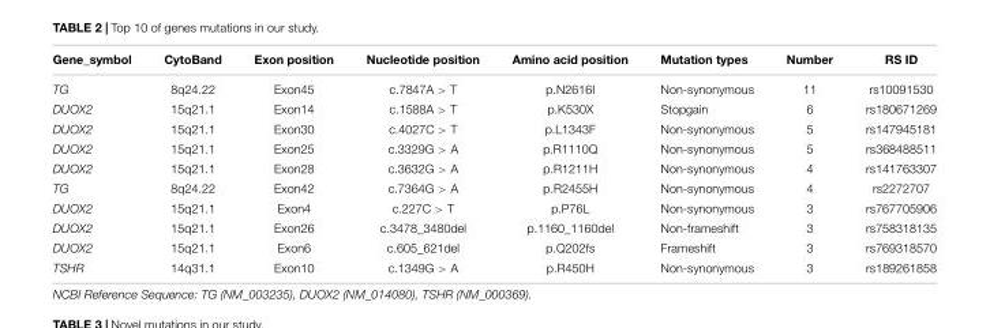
<table><thead><tr><td>Gene_symbol</td><td>CytoBand</td><td>Exon position</td><td>Nucleotide position</td><td>Amino acid position</td><td>Mutation types</td><td>Number</td><td>RS ID</td></tr></thead><tbody><tr><td>TG</td><td>8q24.22</td><td>Exon45</td><td>c.7847A &gt; T</td><td>p.N2616I</td><td>Non-synonymous</td><td>11</td><td>rs10091530</td></tr><tr><td>DUOX2</td><td>15q21.1</td><td>Exon14</td><td>c.1588A &gt; T</td><td>p.K530X</td><td>Stopgain</td><td>6</td><td>rs180671269</td></tr><tr><td>DUOX2</td><td>15q21.1</td><td>Exon30</td><td>c.4027C &gt; T</td><td>p.L1343F</td><td>Non-synonymous</td><td>5</td><td>rs147945181</td></tr><tr><td>DUOX2</td><td>15q21.1</td><td>Exon25</td><td>c.3329G &gt; A</td><td>p.R1110Q</td><td>Non-synonymous</td><td>5</td><td>rs368488511</td></tr><tr><td>DUOX2</td><td>15q21.1</td><td>Exon28</td><td>c.3632G &gt; A</td><td>p.R1211H</td><td>Non-synonymous</td><td>4</td><td>rs141763307</td></tr><tr><td>TG</td><td>8q24.22</td><td>Exon42</td><td>c.7364G &gt; A</td><td>p.R2455H</td><td>Non-synonymous</td><td>4</td><td>rs2272707</td></tr><tr><td>DUOX2</td><td>15q21.1</td><td>Exon4</td><td>c.227C &gt; T</td><td>p.P76L</td><td>Non-synonymous</td><td>3</td><td>rs767705906</td></tr><tr><td>DUOX2</td><td>15q21.1</td><td>Exon26</td><td>c.3478_3480del</td><td>p.1160_1160del</td><td>Non-frameshift</td><td>3</td><td>rs758318135</td></tr><tr><td>DUOX2</td><td>15q21.1</td><td>Exon6</td><td>c.605_621del</td><td>p.Q202fs</td><td>Frameshift</td><td>3</td><td>rs769318570</td></tr><tr><td>TSHR</td><td>14q31.1</td><td>Exon10</td><td>c.1349G &gt; A</td><td>p.R450H</td><td>Non-synonymous</td><td>3</td><td>rs189261858</td></tr></tbody></table>